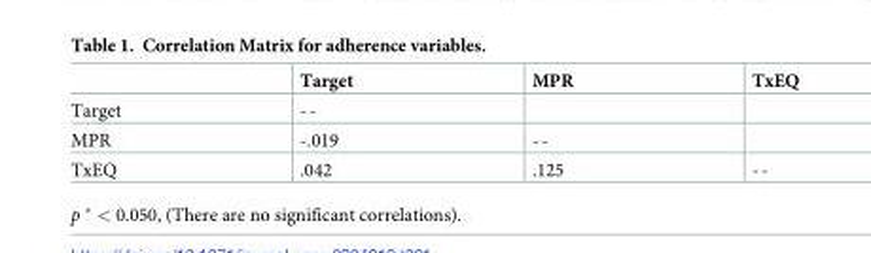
<table><thead><tr><td></td><td>Target</td><td>MPR</td><td>TxEQ</td></tr></thead><tbody><tr><td>Target</td><td>--</td><td></td><td></td></tr><tr><td>MPR</td><td>-.019</td><td>--</td><td></td></tr><tr><td>TxEQ</td><td>.042</td><td>.125</td><td>--</td></tr></tbody></table>